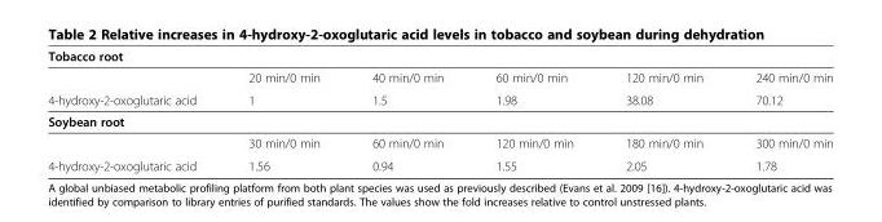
<table><tbody><tr><td colspan="6">Tobacco root</td></tr><tr><td></td><td>20 min/0 min</td><td>40 min/0 min</td><td>60 min/0 min</td><td>120 min/0 min</td><td>240 min/0 min</td></tr><tr><td>4-hydroxy-2-oxoglutaric acid</td><td>1</td><td>1.5</td><td>1.98</td><td>38.08</td><td>70.12</td></tr><tr><td colspan="6">Soybean root</td></tr><tr><td></td><td>30 min/0 min</td><td>60 min/0 min</td><td>120 min/0 min</td><td>180 min/0 min</td><td>300 min/0 min</td></tr><tr><td>4-hydroxy-2-oxoglutaric acid</td><td>1.56</td><td>0.94</td><td>1.55</td><td>2.05</td><td>1.78</td></tr></tbody></table>